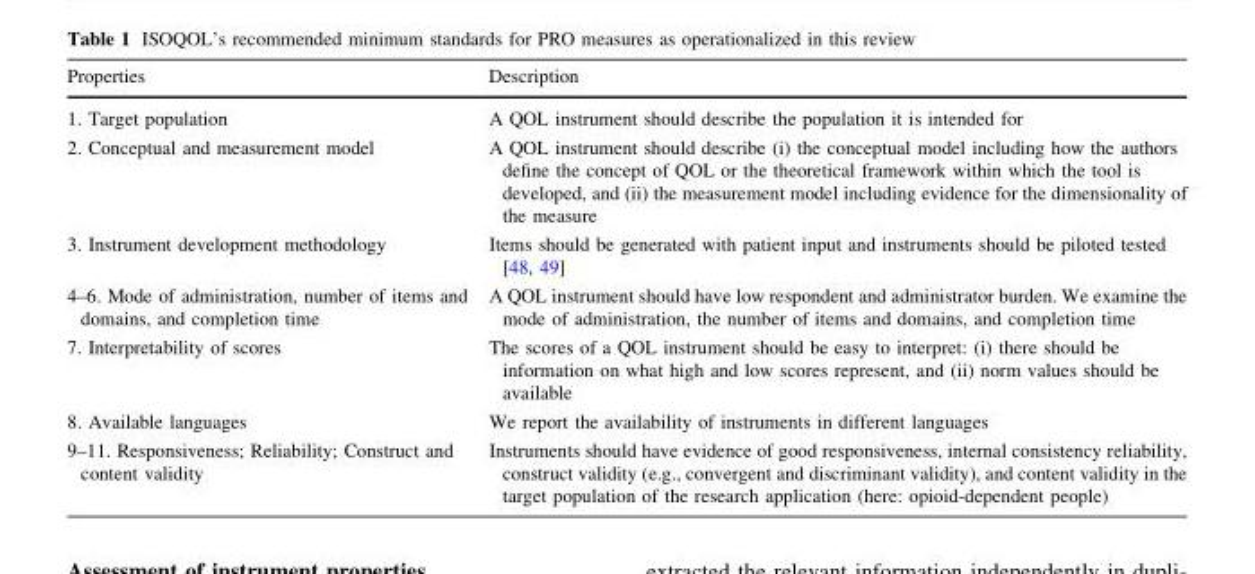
<table><thead><tr><td>Properties</td><td>Description</td></tr></thead><tbody><tr><td>1. Target population</td><td>A QOL instrument should describe the population it is intended for</td></tr><tr><td>2. Conceptual and measurement model</td><td>A QOL instrument should describe (i) the conceptual model including how the authors define the concept of QOL or the theoretical framework within which the tool is developed, and (ii) the measurement model including evidence for the dimensionality of the measure</td></tr><tr><td>3. Instrument development methodology</td><td>Items should be generated with patient input and instruments should be piloted tested [48, 49]</td></tr><tr><td>4–6. Mode of administration, number of items and domains, and completion time</td><td>A QOL instrument should have low respondent and administrator burden. We examine the mode of administration, the number of items and domains, and completion time</td></tr><tr><td>7. Interpretability of scores</td><td>The scores of a QOL instrument should be easy to interpret: (i) there should be information on what high and low scores represent, and (ii) norm values should be available</td></tr><tr><td>8. Available languages</td><td>We report the availability of instruments in different languages</td></tr><tr><td>9–11. Responsiveness; Reliability; Construct and content validity</td><td>Instruments should have evidence of good responsiveness, internal consistency reliability, construct validity (e.g., convergent and discriminant validity), and content validity in the target population of the research application (here: opioid-dependent people)</td></tr></tbody></table>